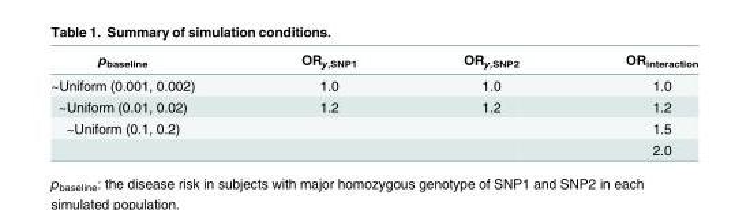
<table><thead><tr><td>p<sub>baseline</sub></td><td>OR<sub>y,SNP1</sub></td><td>OR<sub>y,SNP2</sub></td><td>OR<sub>interaction</sub></td></tr></thead><tbody><tr><td>~Uniform (0.001, 0.002)</td><td>1.0</td><td>1.0</td><td>1.0</td></tr><tr><td>~Uniform (0.01, 0.02)</td><td>1.2</td><td>1.2</td><td>1.2</td></tr><tr><td rowspan="2">~Uniform (0.1, 0.2)</td><td></td><td></td><td>1.5</td></tr><tr><td></td><td></td><td>2.0</td></tr></tbody></table>